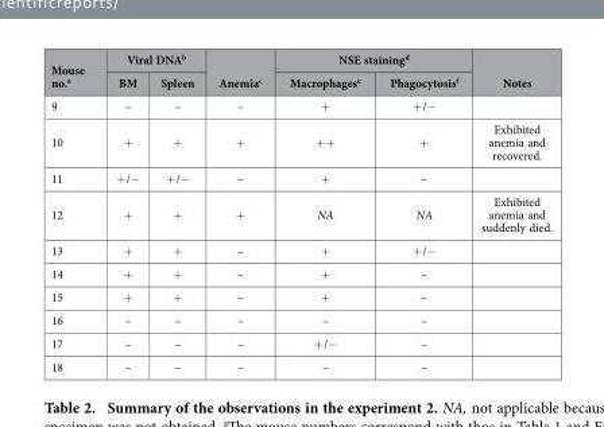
<table><thead><tr><td rowspan="2">Mouse no.<sup>a</sup></td><td colspan="2">Viral DNA<sup>b</sup></td><td rowspan="2">Anemia<sup>c</sup></td><td colspan="2">NSE staining<sup>d</sup></td><td rowspan="2">Notes</td></tr><tr><td>BM</td><td>Spleen</td><td>Macrophages<sup>e</sup></td><td>Phagocytosis<sup>f</sup></td></tr></thead><tbody><tr><td>9</td><td>–</td><td>–</td><td>–</td><td>+</td><td>+ /−</td><td></td></tr><tr><td>10</td><td>+</td><td>+</td><td>+</td><td>+ +</td><td>+</td><td>Exhibited anemia and recovered.</td></tr><tr><td>11</td><td>+ /−</td><td>+ /−</td><td>–</td><td>+</td><td>–</td><td></td></tr><tr><td>12</td><td>+</td><td>+</td><td>+</td><td>NA</td><td>NA</td><td>Exhibited anemia and suddenly died.</td></tr><tr><td>13</td><td>+</td><td>+</td><td>–</td><td>+</td><td>+ /−</td><td></td></tr><tr><td>14</td><td>+</td><td>+</td><td>–</td><td>+</td><td>–</td><td></td></tr><tr><td>15</td><td>+</td><td>+</td><td>–</td><td>+</td><td>–</td><td></td></tr><tr><td>16</td><td>–</td><td>–</td><td>–</td><td>–</td><td>–</td><td></td></tr><tr><td>17</td><td>–</td><td>–</td><td>–</td><td>+ /−</td><td>–</td><td></td></tr><tr><td>18</td><td>–</td><td>–</td><td>–</td><td>–</td><td>–</td><td></td></tr></tbody></table>